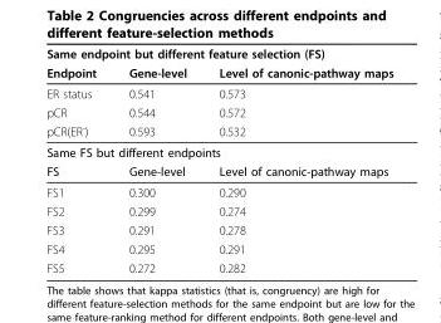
<table><thead><tr><td colspan="3">Same endpoint but different feature selection (FS)</td></tr><tr><td>Endpoint</td><td>Gene-level</td><td>Level of canonic-pathway maps</td></tr></thead><tbody><tr><td>ER status</td><td>0.541</td><td>0.573</td></tr><tr><td>pCR</td><td>0.544</td><td>0.572</td></tr><tr><td>pCR(ER<sup>-</sup>)</td><td>0.593</td><td>0.532</td></tr><tr><td colspan="3">Same FS but different endpoints</td></tr><tr><td>FS</td><td>Gene-level</td><td>Level of canonic-pathway maps</td></tr><tr><td>FS1</td><td>0.300</td><td>0.290</td></tr><tr><td>FS2</td><td>0.299</td><td>0.274</td></tr><tr><td>FS3</td><td>0.291</td><td>0.278</td></tr><tr><td>FS4</td><td>0.295</td><td>0.291</td></tr><tr><td>FS5</td><td>0.272</td><td>0.282</td></tr></tbody></table>